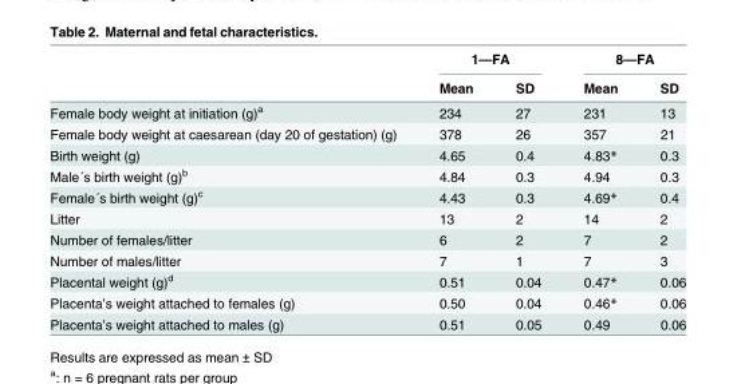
<table><thead><tr><td rowspan="2"></td><td colspan="2">1—FA</td><td colspan="2">8—FA</td></tr><tr><td>Mean</td><td>SD</td><td>Mean</td><td>SD</td></tr></thead><tbody><tr><td>Female body weight at initiation (g)<sup>a</sup></td><td>234</td><td>27</td><td>231</td><td>13</td></tr><tr><td>Female body weight at caesarean (day 20 of gestation) (g)</td><td>378</td><td>26</td><td>357</td><td>21</td></tr><tr><td>Birth weight (g)</td><td>4.65</td><td>0.4</td><td>4.83*</td><td>0.3</td></tr><tr><td>Male´s birth weight (g)<sup>b</sup></td><td>4.84</td><td>0.3</td><td>4.94</td><td>0.3</td></tr><tr><td>Female´s birth weight (g)<sup>c</sup></td><td>4.43</td><td>0.3</td><td>4.69*</td><td>0.4</td></tr><tr><td>Litter</td><td>13</td><td>2</td><td>14</td><td>2</td></tr><tr><td>Number of females/litter</td><td>6</td><td>2</td><td>7</td><td>2</td></tr><tr><td>Number of males/litter</td><td>7</td><td>1</td><td>7</td><td>3</td></tr><tr><td>Placental weight (g)<sup>d</sup></td><td>0.51</td><td>0.04</td><td>0.47*</td><td>0.06</td></tr><tr><td>Placenta’s weight attached to females (g)</td><td>0.50</td><td>0.04</td><td>0.46*</td><td>0.06</td></tr><tr><td>Placenta’s weight attached to males (g)</td><td>0.51</td><td>0.05</td><td>0.49</td><td>0.06</td></tr></tbody></table>